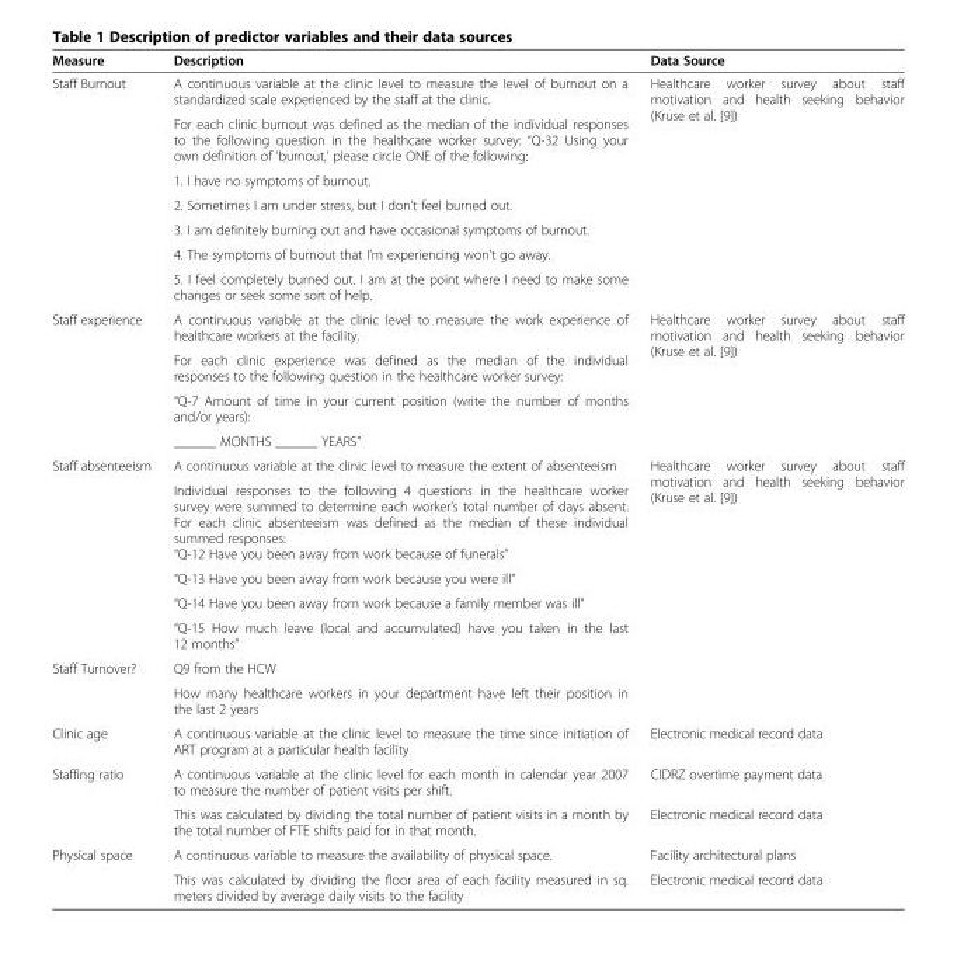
<table><thead><tr><td>Measure</td><td>Description</td><td>Data Source</td></tr></thead><tbody><tr><td rowspan="7">Staff Burnout</td><td>A continuous variable at the clinic level to measure the level of burnout on a standardized scale experienced by the staff at the clinic.</td><td rowspan="7">Healthcare worker survey about staff motivation and health seeking behavior (Kruse et al. [9])</td></tr><tr><td>For each clinic burnout was defined as the median of the individual responses to the following question in the healthcare worker survey: “Q-32 Using your own definition of ‘burnout,’ please circle ONE of the following:</td></tr><tr><td>1. I have no symptoms of burnout.</td></tr><tr><td>2. Sometimes I am under stress, but I don’t feel burned out.</td></tr><tr><td>3. I am definitely burning out and have occasional symptoms of burnout.</td></tr><tr><td>4. The symptoms of burnout that I’m experiencing won’t go away.</td></tr><tr><td>5. I feel completely burned out. I am at the point where I need to make some changes or seek some sort of help.</td></tr><tr><td rowspan="4">Staff experience</td><td>A continuous variable at the clinic level to measure the work experience of healthcare workers at the facility.</td><td rowspan="4">Healthcare worker survey about staff motivation and health seeking behavior (Kruse et al. [9])</td></tr><tr><td>For each clinic experience was defined as the median of the individual responses to the following question in the healthcare worker survey:</td></tr><tr><td>“Q-7 Amount of time in your current position (write the number of months and/or years):</td></tr><tr><td>______ MONTHS ______ YEARS”</td></tr><tr><td rowspan="5">Staff absenteeism</td><td>A continuous variable at the clinic level to measure the extent of absenteeism</td><td rowspan="5">Healthcare worker survey about staff motivation and health seeking behavior (Kruse et al. [9])</td></tr><tr><td>Individual responses to the following 4 questions in the healthcare worker survey were summed to determine each worker’s total number of days absent. For each clinic absenteeism was defined as the median of these individual summed responses: “Q-12 Have you been away from work because of funerals”</td></tr><tr><td>“Q-13 Have you been away from work because you were ill”</td></tr><tr><td>“Q-14 Have you been away from work because a family member was ill”</td></tr><tr><td>“Q-15 How much leave (local and accumulated) have you taken in the last 12 months”</td></tr><tr><td rowspan="2">Staff Turnover?</td><td>Q9 from the HCW</td><td rowspan="2"></td></tr><tr><td>How many healthcare workers in your department have left their position in the last 2 years</td></tr><tr><td>Clinic age</td><td>A continuous variable at the clinic level to measure the time since initiation of ART program at a particular health facility</td><td>Electronic medical record data</td></tr><tr><td rowspan="2">Staffing ratio</td><td>A continuous variable at the clinic level for each month in calendar year 2007 to measure the number of patient visits per shift.</td><td>CIDRZ overtime payment data</td></tr><tr><td>This was calculated by dividing the total number of patient visits in a month by the total number of FTE shifts paid for in that month.</td><td>Electronic medical record data</td></tr><tr><td rowspan="2">Physical space</td><td>A continuous variable to measure the availability of physical space.</td><td>Facility architectural plans</td></tr><tr><td>This was calculated by dividing the floor area of each facility measured in sq. meters divided by average daily visits to the facility</td><td>Electronic medical record data</td></tr></tbody></table>